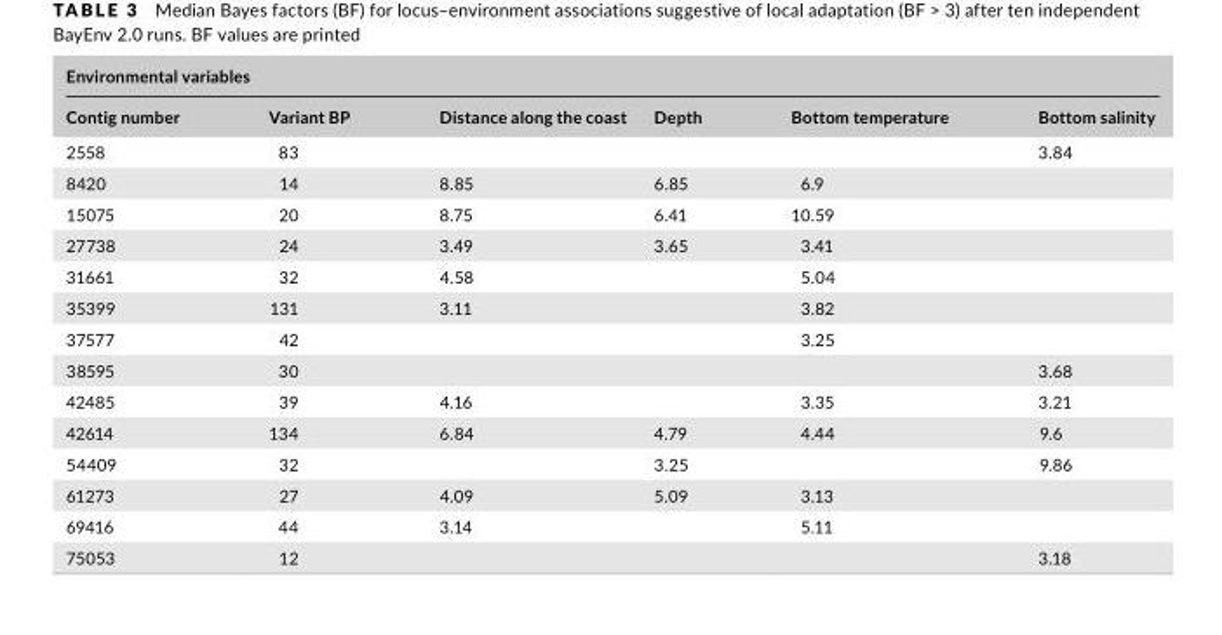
<table><thead><tr><td colspan="6">Environmental variables</td></tr><tr><td>Contig number</td><td>Variant BP</td><td>Distance along the coast</td><td>Depth</td><td>Bottom temperature</td><td>Bottom salinity</td></tr></thead><tbody><tr><td>2558</td><td>83</td><td></td><td></td><td></td><td>3.84</td></tr><tr><td>8420</td><td>14</td><td>8.85</td><td>6.85</td><td>6.9</td><td></td></tr><tr><td>15075</td><td>20</td><td>8.75</td><td>6.41</td><td>10.59</td><td></td></tr><tr><td>27738</td><td>24</td><td>3.49</td><td>3.65</td><td>3.41</td><td></td></tr><tr><td>31661</td><td>32</td><td>4.58</td><td></td><td>5.04</td><td></td></tr><tr><td>35399</td><td>131</td><td>3.11</td><td></td><td>3.82</td><td></td></tr><tr><td>37577</td><td>42</td><td></td><td></td><td>3.25</td><td></td></tr><tr><td>38595</td><td>30</td><td></td><td></td><td></td><td>3.68</td></tr><tr><td>42485</td><td>39</td><td>4.16</td><td></td><td>3.35</td><td>3.21</td></tr><tr><td>42614</td><td>134</td><td>6.84</td><td>4.79</td><td>4.44</td><td>9.6</td></tr><tr><td>54409</td><td>32</td><td></td><td>3.25</td><td></td><td>9.86</td></tr><tr><td>61273</td><td>27</td><td>4.09</td><td>5.09</td><td>3.13</td><td></td></tr><tr><td>69416</td><td>44</td><td>3.14</td><td></td><td>5.11</td><td></td></tr><tr><td>75053</td><td>12</td><td></td><td></td><td></td><td>3.18</td></tr></tbody></table>